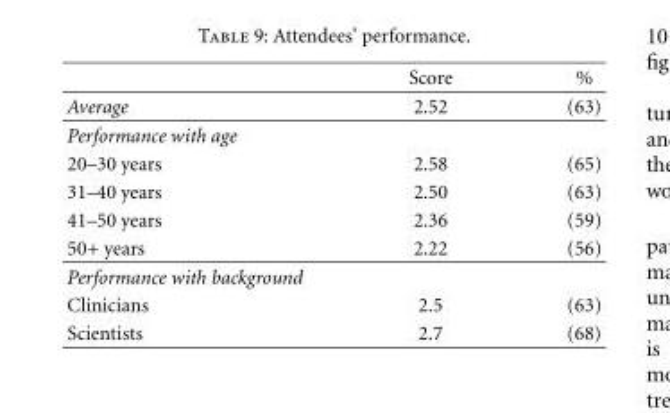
<table><thead><tr><td></td><td>Score</td><td>%</td></tr></thead><tbody><tr><td>Average</td><td>2.52</td><td>(63)</td></tr><tr><td colspan="3">Performance with age</td></tr><tr><td>20–30 years</td><td>2.58</td><td>(65)</td></tr><tr><td>31–40 years</td><td>2.50</td><td>(63)</td></tr><tr><td>41–50 years</td><td>2.36</td><td>(59)</td></tr><tr><td>50+ years</td><td>2.22</td><td>(56)</td></tr><tr><td colspan="3">Performance with background</td></tr><tr><td>Clinicians</td><td>2.5</td><td>(63)</td></tr><tr><td>Scientists</td><td>2.7</td><td>(68)</td></tr></tbody></table>